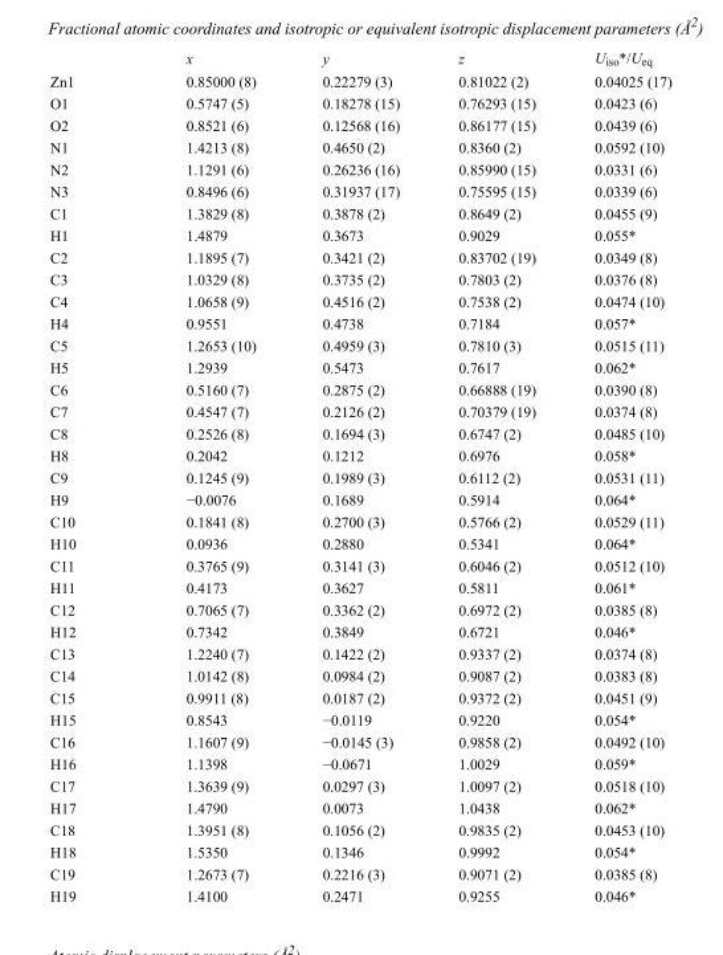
<table><thead><tr><td></td><td>x</td><td>y</td><td>z</td><td>U<sub>iso</sub>*/U<sub>eq</sub></td></tr></thead><tbody><tr><td>Zn1</td><td>0.85000 (8)</td><td>0.22279 (3)</td><td>0.81022 (2)</td><td>0.04025 (17)</td></tr><tr><td>O1</td><td>0.5747 (5)</td><td>0.18278 (15)</td><td>0.76293 (15)</td><td>0.0423 (6)</td></tr><tr><td>O2</td><td>0.8521 (6)</td><td>0.12568 (16)</td><td>0.86177 (15)</td><td>0.0439 (6)</td></tr><tr><td>N1</td><td>1.4213 (8)</td><td>0.4650 (2)</td><td>0.8360 (2)</td><td>0.0592 (10)</td></tr><tr><td>N2</td><td>1.1291 (6)</td><td>0.26236 (16)</td><td>0.85990 (15)</td><td>0.0331 (6)</td></tr><tr><td>N3</td><td>0.8496 (6)</td><td>0.31937 (17)</td><td>0.75595 (15)</td><td>0.0339 (6)</td></tr><tr><td>C1</td><td>1.3829 (8)</td><td>0.3878 (2)</td><td>0.8649 (2)</td><td>0.0455 (9)</td></tr><tr><td>H1</td><td>1.4879</td><td>0.3673</td><td>0.9029</td><td>0.055*</td></tr><tr><td>C2</td><td>1.1895 (7)</td><td>0.3421 (2)</td><td>0.83702 (19)</td><td>0.0349 (8)</td></tr><tr><td>C3</td><td>1.0329 (8)</td><td>0.3735 (2)</td><td>0.7803 (2)</td><td>0.0376 (8)</td></tr><tr><td>C4</td><td>1.0658 (9)</td><td>0.4516 (2)</td><td>0.7538 (2)</td><td>0.0474 (10)</td></tr><tr><td>H4</td><td>0.9551</td><td>0.4738</td><td>0.7184</td><td>0.057*</td></tr><tr><td>C5</td><td>1.2653 (10)</td><td>0.4959 (3)</td><td>0.7810 (3)</td><td>0.0515 (11)</td></tr><tr><td>H5</td><td>1.2939</td><td>0.5473</td><td>0.7617</td><td>0.062*</td></tr><tr><td>C6</td><td>0.5160 (7)</td><td>0.2875 (2)</td><td>0.66888 (19)</td><td>0.0390 (8)</td></tr><tr><td>C7</td><td>0.4547 (7)</td><td>0.2126 (2)</td><td>0.70379 (19)</td><td>0.0374 (8)</td></tr><tr><td>C8</td><td>0.2526 (8)</td><td>0.1694 (3)</td><td>0.6747 (2)</td><td>0.0485 (10)</td></tr><tr><td>H8</td><td>0.2042</td><td>0.1212</td><td>0.6976</td><td>0.058*</td></tr><tr><td>C9</td><td>0.1245 (9)</td><td>0.1989 (3)</td><td>0.6112 (2)</td><td>0.0531 (11)</td></tr><tr><td>H9</td><td>−0.0076</td><td>0.1689</td><td>0.5914</td><td>0.064*</td></tr><tr><td>C10</td><td>0.1841 (8)</td><td>0.2700 (3)</td><td>0.5766 (2)</td><td>0.0529 (11)</td></tr><tr><td>H10</td><td>0.0936</td><td>0.2880</td><td>0.5341</td><td>0.064*</td></tr><tr><td>C11</td><td>0.3765 (9)</td><td>0.3141 (3)</td><td>0.6046 (2)</td><td>0.0512 (10)</td></tr><tr><td>H11</td><td>0.4173</td><td>0.3627</td><td>0.5811</td><td>0.061*</td></tr><tr><td>C12</td><td>0.7065 (7)</td><td>0.3362 (2)</td><td>0.6972 (2)</td><td>0.0385 (8)</td></tr><tr><td>H12</td><td>0.7342</td><td>0.3849</td><td>0.6721</td><td>0.046*</td></tr><tr><td>C13</td><td>1.2240 (7)</td><td>0.1422 (2)</td><td>0.9337 (2)</td><td>0.0374 (8)</td></tr><tr><td>C14</td><td>1.0142 (8)</td><td>0.0984 (2)</td><td>0.9087 (2)</td><td>0.0383 (8)</td></tr><tr><td>C15</td><td>0.9911 (8)</td><td>0.0187 (2)</td><td>0.9372 (2)</td><td>0.0451 (9)</td></tr><tr><td>H15</td><td>0.8543</td><td>−0.0119</td><td>0.9220</td><td>0.054*</td></tr><tr><td>C16</td><td>1.1607 (9)</td><td>−0.0145 (3)</td><td>0.9858 (2)</td><td>0.0492 (10)</td></tr><tr><td>H16</td><td>1.1398</td><td>−0.0671</td><td>1.0029</td><td>0.059*</td></tr><tr><td>C17</td><td>1.3639 (9)</td><td>0.0297 (3)</td><td>1.0097 (2)</td><td>0.0518 (10)</td></tr><tr><td>H17</td><td>1.4790</td><td>0.0073</td><td>1.0438</td><td>0.062*</td></tr><tr><td>C18</td><td>1.3951 (8)</td><td>0.1056 (2)</td><td>0.9835 (2)</td><td>0.0453 (10)</td></tr><tr><td>H18</td><td>1.5350</td><td>0.1346</td><td>0.9992</td><td>0.054*</td></tr><tr><td>C19</td><td>1.2673 (7)</td><td>0.2216 (3)</td><td>0.9071 (2)</td><td>0.0385 (8)</td></tr><tr><td>H19</td><td>1.4100</td><td>0.2471</td><td>0.9255</td><td>0.046*</td></tr></tbody></table>